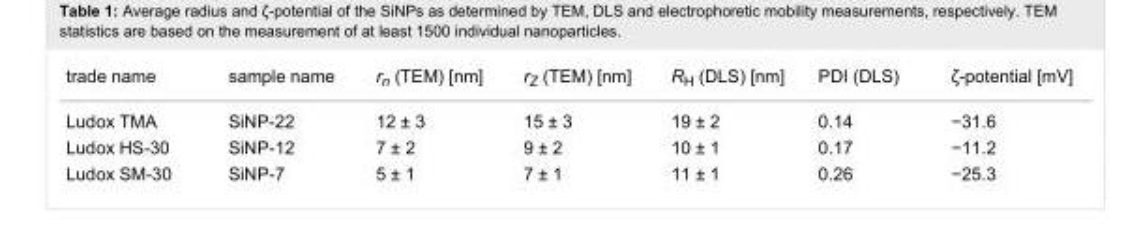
<table><tbody><tr><td>trade name</td><td>sample name</td><td>r<sub>n</sub> (TEM) [nm]</td><td>r<sub>Z</sub> (TEM) [nm]</td><td>R<sub>H</sub> (DLS) [nm]</td><td>PDI (DLS)</td><td>ζ-potential [mV]</td></tr><tr><td>Ludox TMA</td><td>SiNP-22</td><td>12 ± 3</td><td>15 ± 3</td><td>19 ± 2</td><td>0.14</td><td>−31.6</td></tr><tr><td>Ludox HS-30</td><td>SiNP-12</td><td>7 ± 2</td><td>9 ± 2</td><td>10 ± 1</td><td>0.17</td><td>−11.2</td></tr><tr><td>Ludox SM-30</td><td>SiNP-7</td><td>5 ± 1</td><td>7 ± 1</td><td>11 ± 1</td><td>0.26</td><td>−25.3</td></tr></tbody></table>